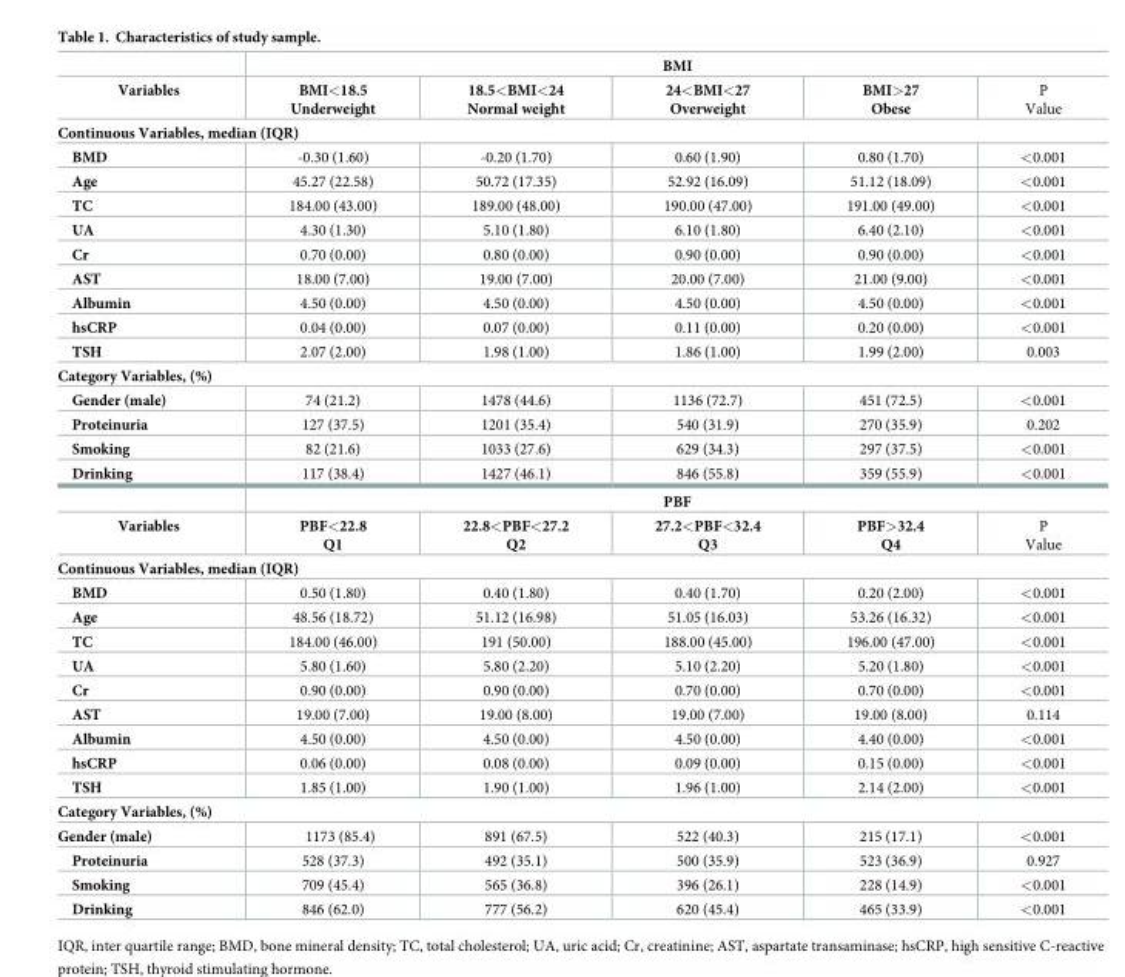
<table><thead><tr><td rowspan="2">Variables</td><td colspan="5">BMI</td></tr><tr><td>BMI&lt;18.5 Underweight</td><td>18.5&lt;BMI&lt;24 Normal weight</td><td>24&lt;BMI&lt;27 Overweight</td><td>BMI&gt;27 Obese</td><td>P Value</td></tr></thead><tbody><tr><td colspan="6">Continuous Variables, median (IQR)</td></tr><tr><td>BMD</td><td>-0.30 (1.60)</td><td>-0.20 (1.70)</td><td>0.60 (1.90)</td><td>0.80 (1.70)</td><td>&lt;0.001</td></tr><tr><td>Age</td><td>45.27 (22.58)</td><td>50.72 (17.35)</td><td>52.92 (16.09)</td><td>51.12 (18.09)</td><td>&lt;0.001</td></tr><tr><td>TC</td><td>184.00 (43.00)</td><td>189.00 (48.00)</td><td>190.00 (47.00)</td><td>191.00 (49.00)</td><td>&lt;0.001</td></tr><tr><td>UA</td><td>4.30 (1.30)</td><td>5.10 (1.80)</td><td>6.10 (1.80)</td><td>6.40 (2.10)</td><td>&lt;0.001</td></tr><tr><td>Cr</td><td>0.70 (0.00)</td><td>0.80 (0.00)</td><td>0.90 (0.00)</td><td>0.90 (0.00)</td><td>&lt;0.001</td></tr><tr><td>AST</td><td>18.00 (7.00)</td><td>19.00 (7.00)</td><td>20.00 (7.00)</td><td>21.00 (9.00)</td><td>&lt;0.001</td></tr><tr><td>Albumin</td><td>4.50 (0.00)</td><td>4.50 (0.00)</td><td>4.50 (0.00)</td><td>4.50 (0.00)</td><td>&lt;0.001</td></tr><tr><td>hsCRP</td><td>0.04 (0.00)</td><td>0.07 (0.00)</td><td>0.11 (0.00)</td><td>0.20 (0.00)</td><td>&lt;0.001</td></tr><tr><td>TSH</td><td>2.07 (2.00)</td><td>1.98 (1.00)</td><td>1.86 (1.00)</td><td>1.99 (2.00)</td><td>0.003</td></tr><tr><td colspan="6">Category Variables, (%)</td></tr><tr><td>Gender (male)</td><td>74 (21.2)</td><td>1478 (44.6)</td><td>1136 (72.7)</td><td>451 (72.5)</td><td>&lt;0.001</td></tr><tr><td>Proteinuria</td><td>127 (37.5)</td><td>1201 (35.4)</td><td>540 (31.9)</td><td>270 (35.9)</td><td>0.202</td></tr><tr><td>Smoking</td><td>82 (21.6)</td><td>1033 (27.6)</td><td>629 (34.3)</td><td>297 (37.5)</td><td>&lt;0.001</td></tr><tr><td rowspan="2">Drinking</td><td>117 (38.4)</td><td>1427 (46.1)</td><td>846 (55.8)</td><td>359 (55.9)</td><td>&lt;0.001</td></tr><tr><td colspan="5">PBF</td></tr><tr><td>Variables</td><td>PBF&lt;22.8 Q1</td><td>22.8&lt;PBF&lt;27.2 Q2</td><td>27.2&lt;PBF&lt;32.4 Q3</td><td>PBF&gt;32.4 Q4</td><td>P Value</td></tr><tr><td colspan="6">Continuous Variables, median (IQR)</td></tr><tr><td>BMD</td><td>0.50 (1.80)</td><td>0.40 (1.80)</td><td>0.40 (1.70)</td><td>0.20 (2.00)</td><td>&lt;0.001</td></tr><tr><td>Age</td><td>48.56 (18.72)</td><td>51.12 (16.98)</td><td>51.05 (16.03)</td><td>53.26 (16.32)</td><td>&lt;0.001</td></tr><tr><td>TC</td><td>184.00 (46.00)</td><td>191 (50.00)</td><td>188.00 (45.00)</td><td>196.00 (47.00)</td><td>&lt;0.001</td></tr><tr><td>UA</td><td>5.80 (1.60)</td><td>5.80 (2.20)</td><td>5.10 (2.20)</td><td>5.20 (1.80)</td><td>&lt;0.001</td></tr><tr><td>Cr</td><td>0.90 (0.00)</td><td>0.90 (0.00)</td><td>0.70 (0.00)</td><td>0.70 (0.00)</td><td>&lt;0.001</td></tr><tr><td>AST</td><td>19.00 (7.00)</td><td>19.00 (8.00)</td><td>19.00 (7.00)</td><td>19.00 (8.00)</td><td>0.114</td></tr><tr><td>Albumin</td><td>4.50 (0.00)</td><td>4.50 (0.00)</td><td>4.50 (0.00)</td><td>4.40 (0.00)</td><td>&lt;0.001</td></tr><tr><td>hsCRP</td><td>0.06 (0.00)</td><td>0.08 (0.00)</td><td>0.09 (0.00)</td><td>0.15 (0.00)</td><td>&lt;0.001</td></tr><tr><td>TSH</td><td>1.85 (1.00)</td><td>1.90 (1.00)</td><td>1.96 (1.00)</td><td>2.14 (2.00)</td><td>&lt;0.001</td></tr><tr><td colspan="6">Category Variables, (%)</td></tr><tr><td>Gender (male)</td><td>1173 (85.4)</td><td>891 (67.5)</td><td>522 (40.3)</td><td>215 (17.1)</td><td>&lt;0.001</td></tr><tr><td>Proteinuria</td><td>528 (37.3)</td><td>492 (35.1)</td><td>500 (35.9)</td><td>523 (36.9)</td><td>0.927</td></tr><tr><td>Smoking</td><td>709 (45.4)</td><td>565 (36.8)</td><td>396 (26.1)</td><td>228 (14.9)</td><td>&lt;0.001</td></tr><tr><td>Drinking</td><td>846 (62.0)</td><td>777 (56.2)</td><td>620 (45.4)</td><td>465 (33.9)</td><td>&lt;0.001</td></tr></tbody></table>